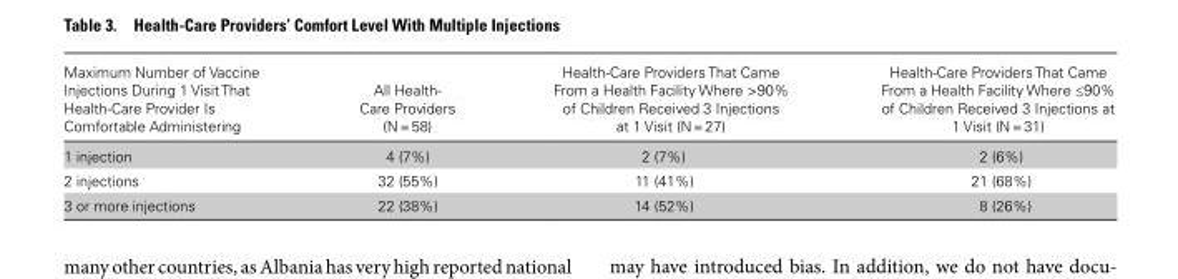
<table><thead><tr><td>Maximum Number of Vaccine Injections During 1 Visit That Health-Care Provider Is Comfortable Administering</td><td>All Health- Care Providers (N = 58)</td><td>Health-Care Providers That Came From a Health Facility Where &gt;90% of Children Received 3 Injections at 1 Visit (N = 27)</td><td>Health-Care Providers That Came From a Health Facility Where ≤90% of Children Received 3 Injections at 1 Visit (N = 31)</td></tr></thead><tbody><tr><td>1 injection</td><td>4 (7%)</td><td>2 (7%)</td><td>2 (6%)</td></tr><tr><td>2 injections</td><td>32 (55%)</td><td>11 (41%)</td><td>21 (68%)</td></tr><tr><td>3 or more injections</td><td>22 (38%)</td><td>14 (52%)</td><td>8 (26%)</td></tr></tbody></table>